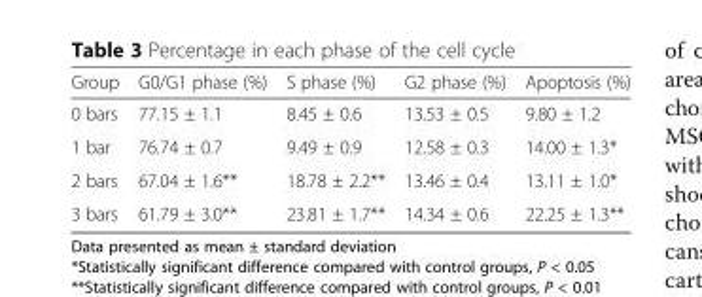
<table><thead><tr><td>Group</td><td>G0/G1 phase (%)</td><td>S phase (%)</td><td>G2 phase (%)</td><td>Apoptosis (%)</td></tr></thead><tbody><tr><td>0 bars</td><td>77.15 ± 1.1</td><td>8.45 ± 0.6</td><td>13.53 ± 0.5</td><td>9.80 ± 1.2</td></tr><tr><td>1 bar</td><td>76.74 ± 0.7</td><td>9.49 ± 0.9</td><td>12.58 ± 0.3</td><td>14.00 ± 1.3*</td></tr><tr><td>2 bars</td><td>67.04 ± 1.6**</td><td>18.78 ± 2.2**</td><td>13.46 ± 0.4</td><td>13.11 ± 1.0*</td></tr><tr><td>3 bars</td><td>61.79 ± 3.0**</td><td>23.81 ± 1.7**</td><td>14.34 ± 0.6</td><td>22.25 ± 1.3**</td></tr></tbody></table>